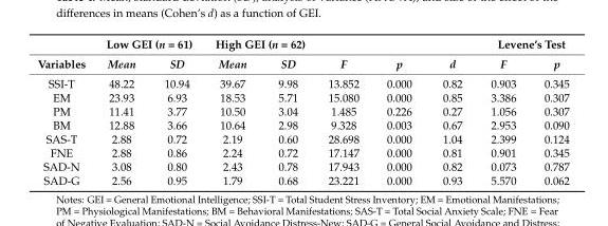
<table><thead><tr><td rowspan="2">Variables</td><td colspan="2">Low GEI (n = 61)</td><td colspan="2">High GEI (n = 62)</td><td rowspan="2">F</td><td rowspan="2">p</td><td rowspan="2">d</td><td colspan="2">Levene’s Test</td></tr><tr><td>Mean</td><td>SD</td><td>Mean</td><td>SD</td><td>F</td><td>p</td></tr></thead><tbody><tr><td>SSI-T</td><td>48.22</td><td>10.94</td><td>39.67</td><td>9.98</td><td>13.852</td><td>0.000</td><td>0.82</td><td>0.903</td><td>0.345</td></tr><tr><td>EM</td><td>23.93</td><td>6.93</td><td>18.53</td><td>5.71</td><td>15.080</td><td>0.000</td><td>0.85</td><td>3.386</td><td>0.307</td></tr><tr><td>PM</td><td>11.41</td><td>3.77</td><td>10.50</td><td>3.04</td><td>1.485</td><td>0.226</td><td>0.27</td><td>1.056</td><td>0.307</td></tr><tr><td>BM</td><td>12.88</td><td>3.66</td><td>10.64</td><td>2.98</td><td>9.328</td><td>0.003</td><td>0.67</td><td>2.953</td><td>0.090</td></tr><tr><td>SAS-T</td><td>2.88</td><td>0.72</td><td>2.19</td><td>0.60</td><td>28.698</td><td>0.000</td><td>1.04</td><td>2.399</td><td>0.124</td></tr><tr><td>FNE</td><td>2.88</td><td>0.86</td><td>2.24</td><td>0.72</td><td>17.147</td><td>0.000</td><td>0.81</td><td>0.901</td><td>0.345</td></tr><tr><td>SAD-N</td><td>3.08</td><td>0.80</td><td>2.43</td><td>0.78</td><td>17.943</td><td>0.000</td><td>0.82</td><td>0.073</td><td>0.787</td></tr><tr><td>SAD-G</td><td>2.56</td><td>0.95</td><td>1.79</td><td>0.68</td><td>23.221</td><td>0.000</td><td>0.93</td><td>5.570</td><td>0.062</td></tr></tbody></table>